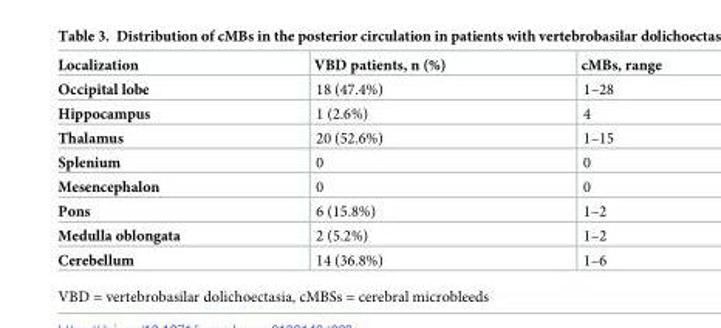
<table><thead><tr><td>Localization</td><td>VBD patients, n (%)</td><td>cMBs, range</td></tr></thead><tbody><tr><td>Occipital lobe</td><td>18 (47.4%)</td><td>1–28</td></tr><tr><td>Hippocampus</td><td>1 (2.6%)</td><td>4</td></tr><tr><td>Thalamus</td><td>20 (52.6%)</td><td>1–15</td></tr><tr><td>Splenium</td><td>0</td><td>0</td></tr><tr><td>Mesencephalon</td><td>0</td><td>0</td></tr><tr><td>Pons</td><td>6 (15.8%)</td><td>1–2</td></tr><tr><td>Medulla oblongata</td><td>2 (5.2%)</td><td>1–2</td></tr><tr><td>Cerebellum</td><td>14 (36.8%)</td><td>1–6</td></tr></tbody></table>